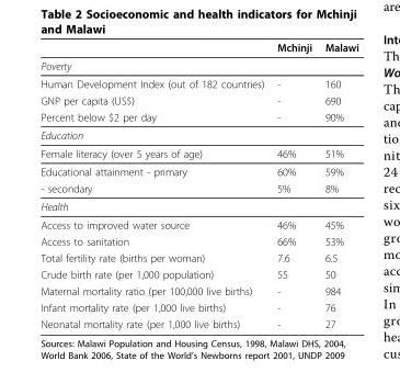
<table><thead><tr><td></td><td>Mchinji</td><td>Malawi</td></tr></thead><tbody><tr><td colspan="3">Poverty</td></tr><tr><td>Human Development Index (out of 182 countries)</td><td>-</td><td>160</td></tr><tr><td>GNP per capita (US$)</td><td>-</td><td>690</td></tr><tr><td>Percent below $2 per day</td><td>-</td><td>90%</td></tr><tr><td colspan="3">Education</td></tr><tr><td>Female literacy (over 5 years of age)</td><td>46%</td><td>51%</td></tr><tr><td>Educational attainment - primary</td><td>60%</td><td>59%</td></tr><tr><td>- secondary</td><td>5%</td><td>8%</td></tr><tr><td colspan="3">Health</td></tr><tr><td>Access to improved water source</td><td>46%</td><td>45%</td></tr><tr><td>Access to sanitation</td><td>66%</td><td>53%</td></tr><tr><td>Total fertility rate (births per woman)</td><td>7.6</td><td>6.5</td></tr><tr><td>Crude birth rate (per 1,000 population)</td><td>55</td><td>50</td></tr><tr><td>Maternal mortality ratio (per 100,000 live births)</td><td>-</td><td>984</td></tr><tr><td>Infant mortality rate (per 1,000 live births)</td><td>-</td><td>76</td></tr><tr><td>Neonatal mortality rate (per 1,000 live births)</td><td>-</td><td>27</td></tr></tbody></table>